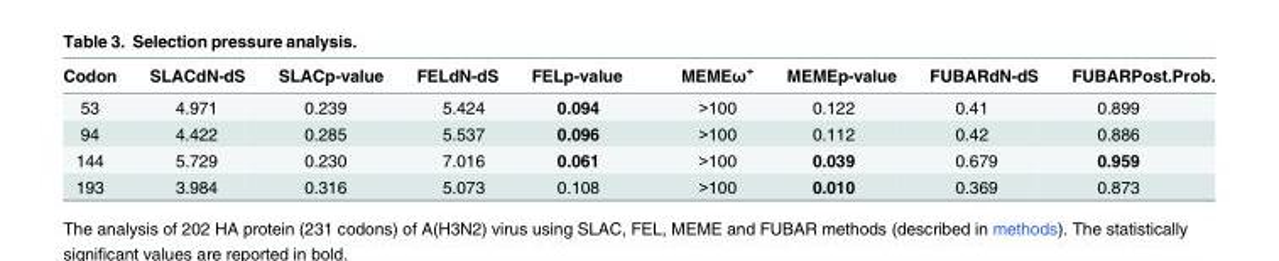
<table><thead><tr><td>Codon</td><td>SLACdN-dS</td><td>SLACp-value</td><td>FELdN-dS</td><td>FELp-value</td><td>MEMEω<sup>+</sup></td><td>MEMEp-value</td><td>FUBARdN-dS</td><td>FUBARPost.Prob.</td></tr></thead><tbody><tr><td>53</td><td>4.971</td><td>0.239</td><td>5.424</td><td>0.094</td><td>&gt;100</td><td>0.122</td><td>0.41</td><td>0.899</td></tr><tr><td>94</td><td>4.422</td><td>0.285</td><td>5.537</td><td>0.096</td><td>&gt;100</td><td>0.112</td><td>0.42</td><td>0.886</td></tr><tr><td>144</td><td>5.729</td><td>0.230</td><td>7.016</td><td>0.061</td><td>&gt;100</td><td>0.039</td><td>0.679</td><td>0.959</td></tr><tr><td>193</td><td>3.984</td><td>0.316</td><td>5.073</td><td>0.108</td><td>&gt;100</td><td>0.010</td><td>0.369</td><td>0.873</td></tr></tbody></table>